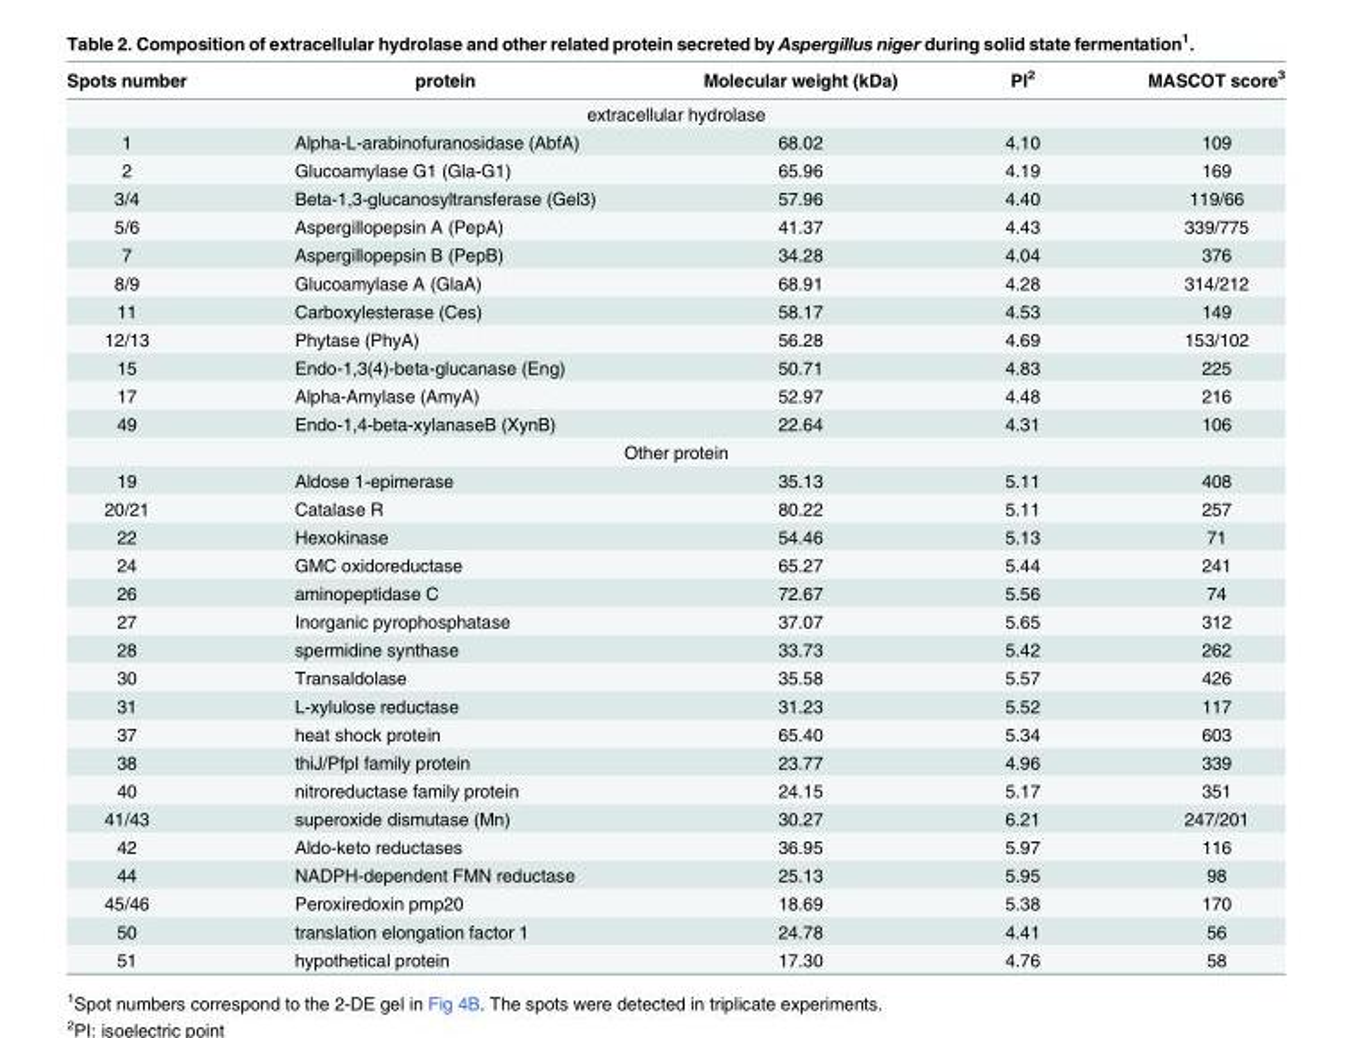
<table><thead><tr><td>Spots number</td><td>protein</td><td>Molecular weight (kDa)</td><td>PI<sup>2</sup></td><td>MASCOT score<sup>3</sup></td></tr></thead><tbody><tr><td colspan="5">extracellular hydrolase</td></tr><tr><td>1</td><td>Alpha-L-arabinofuranosidase (AbfA)</td><td>68.02</td><td>4.10</td><td>109</td></tr><tr><td>2</td><td>Glucoamylase G1 (Gla-G1)</td><td>65.96</td><td>4.19</td><td>169</td></tr><tr><td>3/4</td><td>Beta-1,3-glucanosyltransferase (Gel3)</td><td>57.96</td><td>4.40</td><td>119/66</td></tr><tr><td>5/6</td><td>Aspergillopepsin A (PepA)</td><td>41.37</td><td>4.43</td><td>339/775</td></tr><tr><td>7</td><td>Aspergillopepsin B (PepB)</td><td>34.28</td><td>4.04</td><td>376</td></tr><tr><td>8/9</td><td>Glucoamylase A (GlaA)</td><td>68.91</td><td>4.28</td><td>314/212</td></tr><tr><td>11</td><td>Carboxylesterase (Ces)</td><td>58.17</td><td>4.53</td><td>149</td></tr><tr><td>12/13</td><td>Phytase (PhyA)</td><td>56.28</td><td>4.69</td><td>153/102</td></tr><tr><td>15</td><td>Endo-1,3(4)-beta-glucanase (Eng)</td><td>50.71</td><td>4.83</td><td>225</td></tr><tr><td>17</td><td>Alpha-Amylase (AmyA)</td><td>52.97</td><td>4.48</td><td>216</td></tr><tr><td>49</td><td>Endo-1,4-beta-xylanaseB (XynB)</td><td>22.64</td><td>4.31</td><td>106</td></tr><tr><td colspan="5">Other protein</td></tr><tr><td>19</td><td>Aldose 1-epimerase</td><td>35.13</td><td>5.11</td><td>408</td></tr><tr><td>20/21</td><td>Catalase R</td><td>80.22</td><td>5.11</td><td>257</td></tr><tr><td>22</td><td>Hexokinase</td><td>54.46</td><td>5.13</td><td>71</td></tr><tr><td>24</td><td>GMC oxidoreductase</td><td>65.27</td><td>5.44</td><td>241</td></tr><tr><td>26</td><td>aminopeptidase C</td><td>72.67</td><td>5.56</td><td>74</td></tr><tr><td>27</td><td>Inorganic pyrophosphatase</td><td>37.07</td><td>5.65</td><td>312</td></tr><tr><td>28</td><td>spermidine synthase</td><td>33.73</td><td>5.42</td><td>262</td></tr><tr><td>30</td><td>Transaldolase</td><td>35.58</td><td>5.57</td><td>426</td></tr><tr><td>31</td><td>L-xylulose reductase</td><td>31.23</td><td>5.52</td><td>117</td></tr><tr><td>37</td><td>heat shock protein</td><td>65.40</td><td>5.34</td><td>603</td></tr><tr><td>38</td><td>thiJ/PfpI family protein</td><td>23.77</td><td>4.96</td><td>339</td></tr><tr><td>40</td><td>nitroreductase family protein</td><td>24.15</td><td>5.17</td><td>351</td></tr><tr><td>41/43</td><td>superoxide dismutase (Mn)</td><td>30.27</td><td>6.21</td><td>247/201</td></tr><tr><td>42</td><td>Aldo-keto reductases</td><td>36.95</td><td>5.97</td><td>116</td></tr><tr><td>44</td><td>NADPH-dependent FMN reductase</td><td>25.13</td><td>5.95</td><td>98</td></tr><tr><td>45/46</td><td>Peroxiredoxin pmp20</td><td>18.69</td><td>5.38</td><td>170</td></tr><tr><td>50</td><td>translation elongation factor 1</td><td>24.78</td><td>4.41</td><td>56</td></tr><tr><td>51</td><td>hypothetical protein</td><td>17.30</td><td>4.76</td><td>58</td></tr></tbody></table>